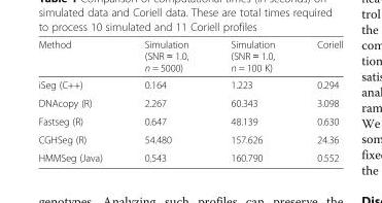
<table><thead><tr><td>Method</td><td>Simulation (SNR ≃ 1.0, n = 5000)</td><td>Simulation (SNR ≃ 1.0, n = 100 K)</td><td>Coriell</td></tr></thead><tbody><tr><td>iSeg (C++)</td><td>0.164</td><td>1.223</td><td>0.294</td></tr><tr><td>DNAcopy (R)</td><td>2.267</td><td>60.343</td><td>3.098</td></tr><tr><td>Fastseg (R)</td><td>0.647</td><td>48.139</td><td>0.630</td></tr><tr><td>CGHSeg (R)</td><td>54.480</td><td>157.626</td><td>24.36</td></tr><tr><td>HMMSeg (Java)</td><td>0.543</td><td>160.790</td><td>0.552</td></tr></tbody></table>